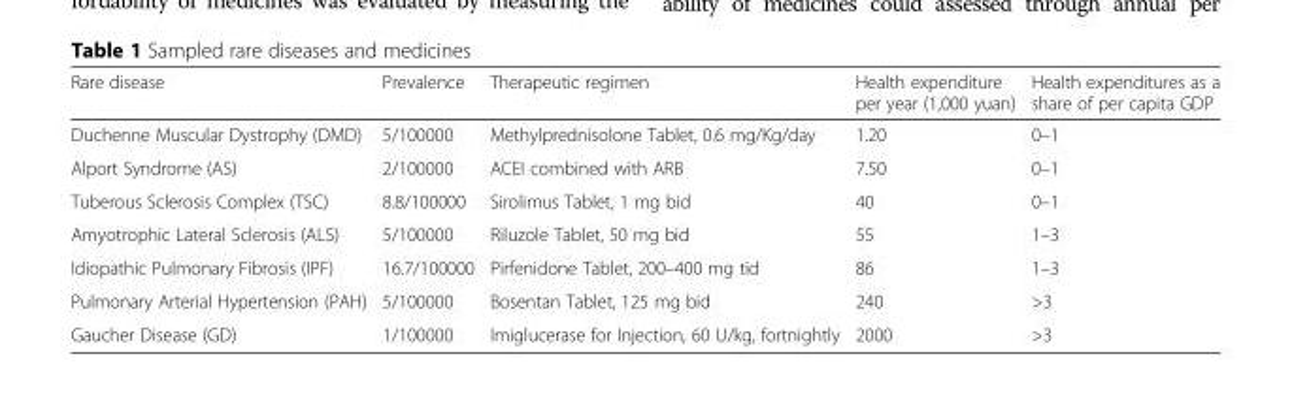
<table><thead><tr><td>Rare disease</td><td>Prevalence</td><td>Therapeutic regimen</td><td>Health expenditure per year (1,000 yuan)</td><td>Health expenditures as a share of per capita GDP</td></tr></thead><tbody><tr><td>Duchenne Muscular Dystrophy (DMD)</td><td>5/100000</td><td>Methylprednisolone Tablet, 0.6 mg/Kg/day</td><td>1.20</td><td>0–1</td></tr><tr><td>Alport Syndrome (AS)</td><td>2/100000</td><td>ACEI combined with ARB</td><td>7.50</td><td>0–1</td></tr><tr><td>Tuberous Sclerosis Complex (TSC)</td><td>8.8/100000</td><td>Sirolimus Tablet, 1 mg bid</td><td>40</td><td>0–1</td></tr><tr><td>Amyotrophic Lateral Sclerosis (ALS)</td><td>5/100000</td><td>Riluzole Tablet, 50 mg bid</td><td>55</td><td>1–3</td></tr><tr><td>Idiopathic Pulmonary Fibrosis (IPF)</td><td>16.7/100000</td><td>Pirfenidone Tablet, 200–400 mg tid</td><td>86</td><td>1–3</td></tr><tr><td>Pulmonary Arterial Hypertension (PAH)</td><td>5/100000</td><td>Bosentan Tablet, 125 mg bid</td><td>240</td><td>&gt;3</td></tr><tr><td>Gaucher Disease (GD)</td><td>1/100000</td><td>Imiglucerase for Injection, 60 U/kg, fortnightly</td><td>2000</td><td>&gt;3</td></tr></tbody></table>